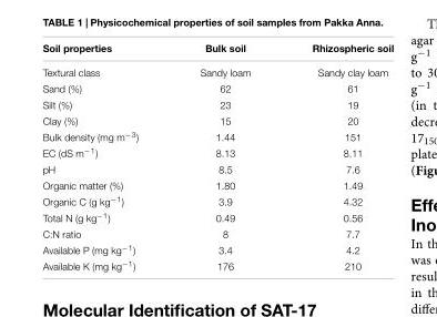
<table><thead><tr><td>Soil properties</td><td>Bulk soil</td><td>Rhizospheric soil</td></tr></thead><tbody><tr><td>Textural class</td><td>Sandy loam</td><td>Sandy clay loam</td></tr><tr><td>Sand (%)</td><td>62</td><td>61</td></tr><tr><td>Silt (%)</td><td>23</td><td>19</td></tr><tr><td>Clay (%)</td><td>15</td><td>20</td></tr><tr><td>Bulk density (mg m<sup>−3</sup>)</td><td>1.44</td><td>151</td></tr><tr><td>EC (dS m<sup>−1</sup>)</td><td>8.13</td><td>8.11</td></tr><tr><td>pH</td><td>8.5</td><td>7.6</td></tr><tr><td>Organic matter (%)</td><td>1.80</td><td>1.49</td></tr><tr><td>Organic C (g kg<sup>−1</sup>)</td><td>3.9</td><td>4.32</td></tr><tr><td>Total N (g kg<sup>−1</sup>)</td><td>0.49</td><td>0.56</td></tr><tr><td>C:N ratio</td><td>8</td><td>7.7</td></tr><tr><td>Available P (mg kg<sup>−1</sup>)</td><td>3.4</td><td>4.2</td></tr><tr><td>Available K (mg kg<sup>−1</sup>)</td><td>176</td><td>210</td></tr></tbody></table>